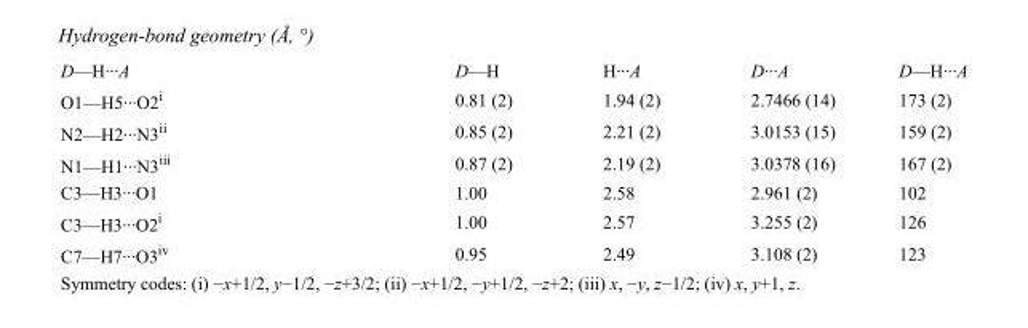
<table><tbody><tr><td>D—H···A</td><td>D—H</td><td>H···A</td><td>D···A</td><td>D—H···A</td></tr><tr><td>O1—H5···O2<sup>i</sup></td><td>0.81 (2)</td><td>1.94 (2)</td><td>2.7466 (14)</td><td>173 (2)</td></tr><tr><td>N2—H2···N3<sup>ii</sup></td><td>0.85 (2)</td><td>2.21 (2)</td><td>3.0153 (15)</td><td>159 (2)</td></tr><tr><td>N1—H1···N3<sup>iii</sup></td><td>0.87 (2)</td><td>2.19 (2)</td><td>3.0378 (16)</td><td>167 (2)</td></tr><tr><td>C3—H3···O1</td><td>1.00</td><td>2.58</td><td>2.961 (2)</td><td>102</td></tr><tr><td>C3—H3···O2<sup>i</sup></td><td>1.00</td><td>2.57</td><td>3.255 (2)</td><td>126</td></tr><tr><td>C7—H7···O3<sup>iv</sup></td><td>0.95</td><td>2.49</td><td>3.108 (2)</td><td>123</td></tr></tbody></table>